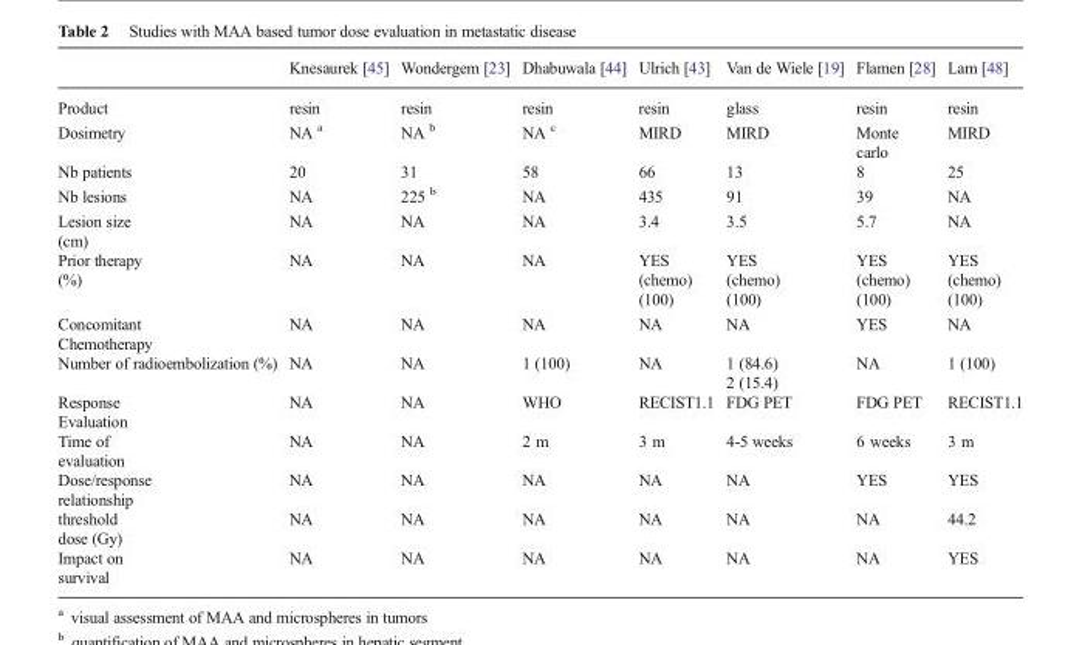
<table><thead><tr><td></td><td>Knesaurek [45]</td><td>Wondergem [23]</td><td>Dhabuwala [44]</td><td>Ulrich [43]</td><td>Van de Wiele [19]</td><td>Flamen [28]</td><td>Lam [48]</td></tr></thead><tbody><tr><td>Product</td><td>resin</td><td>resin</td><td>resin</td><td>resin</td><td>glass</td><td>resin</td><td>resin</td></tr><tr><td>Dosimetry</td><td>NA <sup>a</sup></td><td>NA <sup>b</sup></td><td>NA <sup>c</sup></td><td>MIRD</td><td>MIRD</td><td>Monte carlo</td><td>MIRD</td></tr><tr><td>Nb patients</td><td>20</td><td>31</td><td>58</td><td>66</td><td>13</td><td>8</td><td>25</td></tr><tr><td>Nb lesions</td><td>NA</td><td>225 <sup>b</sup></td><td>NA</td><td>435</td><td>91</td><td>39</td><td>NA</td></tr><tr><td>Lesion size (cm)</td><td>NA</td><td>NA</td><td>NA</td><td>3.4</td><td>3.5</td><td>5.7</td><td>NA</td></tr><tr><td>Prior therapy (%)</td><td>NA</td><td>NA</td><td>NA</td><td>YES (chemo) (100)</td><td>YES (chemo) (100)</td><td>YES (chemo) (100)</td><td>YES (chemo) (100)</td></tr><tr><td>Concomitant Chemotherapy</td><td>NA</td><td>NA</td><td>NA</td><td>NA</td><td>NA</td><td>YES</td><td>NA</td></tr><tr><td>Number of radioembolization (%)</td><td>NA</td><td>NA</td><td>1 (100)</td><td>NA</td><td>1 (84.6) 2 (15.4)</td><td>NA</td><td>1 (100)</td></tr><tr><td>Response Evaluation</td><td>NA</td><td>NA</td><td>WHO</td><td>RECIST1.1</td><td>FDG PET</td><td>FDG PET</td><td>RECIST1.1</td></tr><tr><td>Time of evaluation</td><td>NA</td><td>NA</td><td>2 m</td><td>3 m</td><td>4-5 weeks</td><td>6 weeks</td><td>3 m</td></tr><tr><td>Dose/response relationship</td><td>NA</td><td>NA</td><td>NA</td><td>NA</td><td>NA</td><td>YES</td><td>YES</td></tr><tr><td>threshold dose (Gy)</td><td>NA</td><td>NA</td><td>NA</td><td>NA</td><td>NA</td><td>NA</td><td>44.2</td></tr><tr><td>Impact on survival</td><td>NA</td><td>NA</td><td>NA</td><td>NA</td><td>NA</td><td>NA</td><td>YES</td></tr></tbody></table>